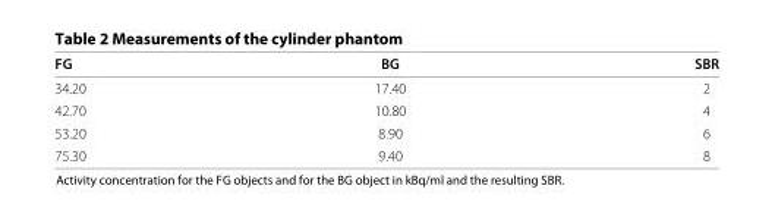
<table><thead><tr><td>FG</td><td>BG</td><td>SBR</td></tr></thead><tbody><tr><td>34.20</td><td>17.40</td><td>2</td></tr><tr><td>42.70</td><td>10.80</td><td>4</td></tr><tr><td>53.20</td><td>8.90</td><td>6</td></tr><tr><td>75.30</td><td>9.40</td><td>8</td></tr></tbody></table>